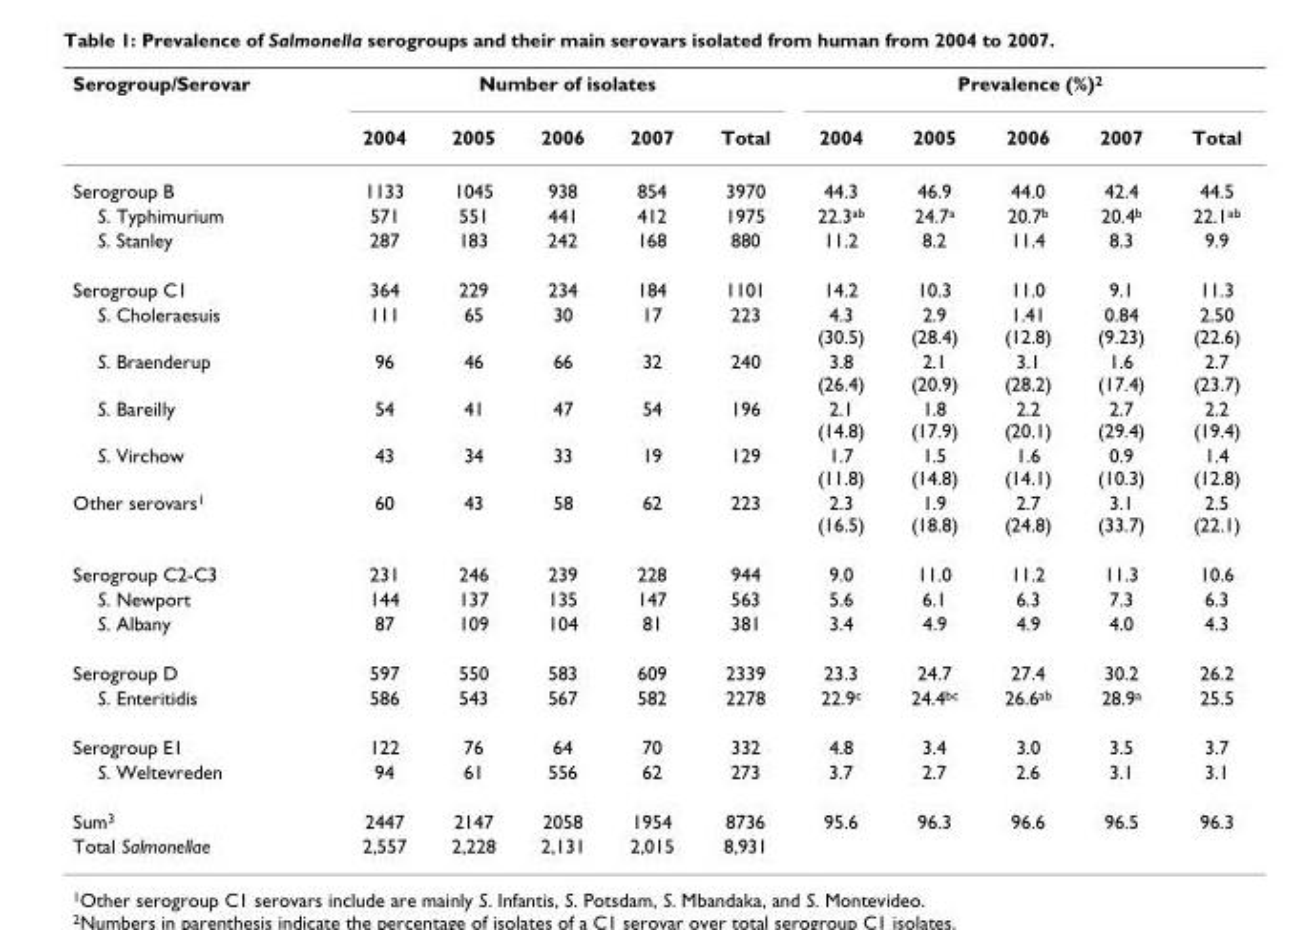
<table><thead><tr><td rowspan="2">Serogroup/Serovar</td><td colspan="5">Number of isolates</td><td colspan="5">Prevalence (%)<sup>2</sup></td></tr><tr><td>2004</td><td>2005</td><td>2006</td><td>2007</td><td>Total</td><td>2004</td><td>2005</td><td>2006</td><td>2007</td><td>Total</td></tr></thead><tbody><tr><td>Serogroup B</td><td>1133</td><td>1045</td><td>938</td><td>854</td><td>3970</td><td>44.3</td><td>46.9</td><td>44.0</td><td>42.4</td><td>44.5</td></tr><tr><td>S. Typhimurium</td><td>571</td><td>551</td><td>441</td><td>412</td><td>1975</td><td>22.3<sup>ab</sup></td><td>24.7<sup>a</sup></td><td>20.7<sup>b</sup></td><td>20.4<sup>b</sup></td><td>22.1<sup>ab</sup></td></tr><tr><td>S. Stanley</td><td>287</td><td>183</td><td>242</td><td>168</td><td>880</td><td>11.2</td><td>8.2</td><td>11.4</td><td>8.3</td><td>9.9</td></tr><tr><td>Serogroup C1</td><td>364</td><td>229</td><td>234</td><td>184</td><td>1101</td><td>14.2</td><td>10.3</td><td>11.0</td><td>9.1</td><td>11.3</td></tr><tr><td>S. Choleraesuis</td><td>111</td><td>65</td><td>30</td><td>17</td><td>223</td><td>4.3 (30.5)</td><td>2.9 (28.4)</td><td>1.41 (12.8)</td><td>0.84 (9.23)</td><td>2.50 (22.6)</td></tr><tr><td>S. Braenderup</td><td>96</td><td>46</td><td>66</td><td>32</td><td>240</td><td>3.8 (26.4)</td><td>2.1 (20.9)</td><td>3.1 (28.2)</td><td>1.6 (17.4)</td><td>2.7 (23.7)</td></tr><tr><td>S. Bareilly</td><td>54</td><td>41</td><td>47</td><td>54</td><td>196</td><td>2.1 (14.8)</td><td>1.8 (17.9)</td><td>2.2 (20.1)</td><td>2.7 (29.4)</td><td>2.2 (19.4)</td></tr><tr><td>S. Virchow</td><td>43</td><td>34</td><td>33</td><td>19</td><td>129</td><td>1.7 (11.8)</td><td>1.5 (14.8)</td><td>1.6 (14.1)</td><td>0.9 (10.3)</td><td>1.4 (12.8)</td></tr><tr><td>Other serovars<sup>1</sup></td><td>60</td><td>43</td><td>58</td><td>62</td><td>223</td><td>2.3 (16.5)</td><td>1.9 (18.8)</td><td>2.7 (24.8)</td><td>3.1 (33.7)</td><td>2.5 (22.1)</td></tr><tr><td>Serogroup C2-C3</td><td>231</td><td>246</td><td>239</td><td>228</td><td>944</td><td>9.0</td><td>11.0</td><td>11.2</td><td>11.3</td><td>10.6</td></tr><tr><td>S. Newport</td><td>144</td><td>137</td><td>135</td><td>147</td><td>563</td><td>5.6</td><td>6.1</td><td>6.3</td><td>7.3</td><td>6.3</td></tr><tr><td>S. Albany</td><td>87</td><td>109</td><td>104</td><td>81</td><td>381</td><td>3.4</td><td>4.9</td><td>4.9</td><td>4.0</td><td>4.3</td></tr><tr><td>Serogroup D</td><td>597</td><td>550</td><td>583</td><td>609</td><td>2339</td><td>23.3</td><td>24.7</td><td>27.4</td><td>30.2</td><td>26.2</td></tr><tr><td>S. Enteritidis</td><td>586</td><td>543</td><td>567</td><td>582</td><td>2278</td><td>22.9<sup>c</sup></td><td>24.4<sup>bc</sup></td><td>26.6<sup>ab</sup></td><td>28.9<sup>a</sup></td><td>25.5</td></tr><tr><td>Serogroup E1</td><td>122</td><td>76</td><td>64</td><td>70</td><td>332</td><td>4.8</td><td>3.4</td><td>3.0</td><td>3.5</td><td>3.7</td></tr><tr><td>S. Weltevreden</td><td>94</td><td>61</td><td>556</td><td>62</td><td>273</td><td>3.7</td><td>2.7</td><td>2.6</td><td>3.1</td><td>3.1</td></tr><tr><td>Sum<sup>3</sup></td><td>2447</td><td>2147</td><td>2058</td><td>1954</td><td>8736</td><td>95.6</td><td>96.3</td><td>96.6</td><td>96.5</td><td>96.3</td></tr><tr><td>Total Salmonellae</td><td>2,557</td><td>2,228</td><td>2,131</td><td>2,015</td><td>8,931</td><td></td><td></td><td></td><td></td><td></td></tr></tbody></table>